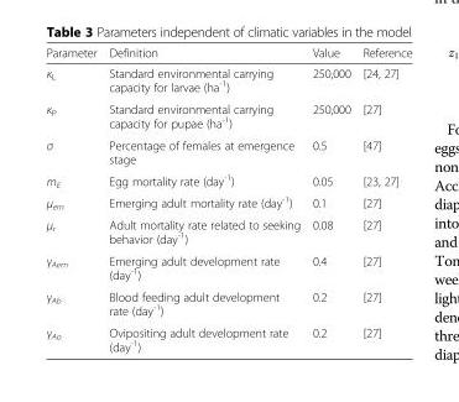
<table><thead><tr><td>Parameter</td><td>Definition</td><td>Value</td><td>Reference</td></tr></thead><tbody><tr><td>κ<sub>L</sub></td><td>Standard environmental carrying capacity for larvae (ha<sup>-1</sup>)</td><td>250,000</td><td>[24, 27]</td></tr><tr><td>κ<sub>P</sub></td><td>Standard environmental carrying capacity for pupae (ha<sup>-1</sup>)</td><td>250,000</td><td>[27]</td></tr><tr><td>σ</td><td>Percentage of females at emergence stage</td><td>0.5</td><td>[47]</td></tr><tr><td>m<sub>E</sub></td><td>Egg mortality rate (day<sup>-1</sup>)</td><td>0.05</td><td>[23, 27]</td></tr><tr><td>μ<sub>em</sub></td><td>Emerging adult mortality rate (day<sup>-1</sup>)</td><td>0.1</td><td>[27]</td></tr><tr><td>μ<sub>r</sub></td><td>Adult mortality rate related to seeking behavior (day<sup>-1</sup>)</td><td>0.08</td><td>[27]</td></tr><tr><td>γ<sub>Aem</sub></td><td>Emerging adult development rate (day<sup>-1</sup>)</td><td>0.4</td><td>[27]</td></tr><tr><td>γ<sub>Ab</sub></td><td>Blood feeding adult development rate (day<sup>-1</sup>)</td><td>0.2</td><td>[27]</td></tr><tr><td>γ<sub>Ao</sub></td><td>Ovipositing adult development rate (day<sup>-1</sup>)</td><td>0.2</td><td>[27]</td></tr></tbody></table>